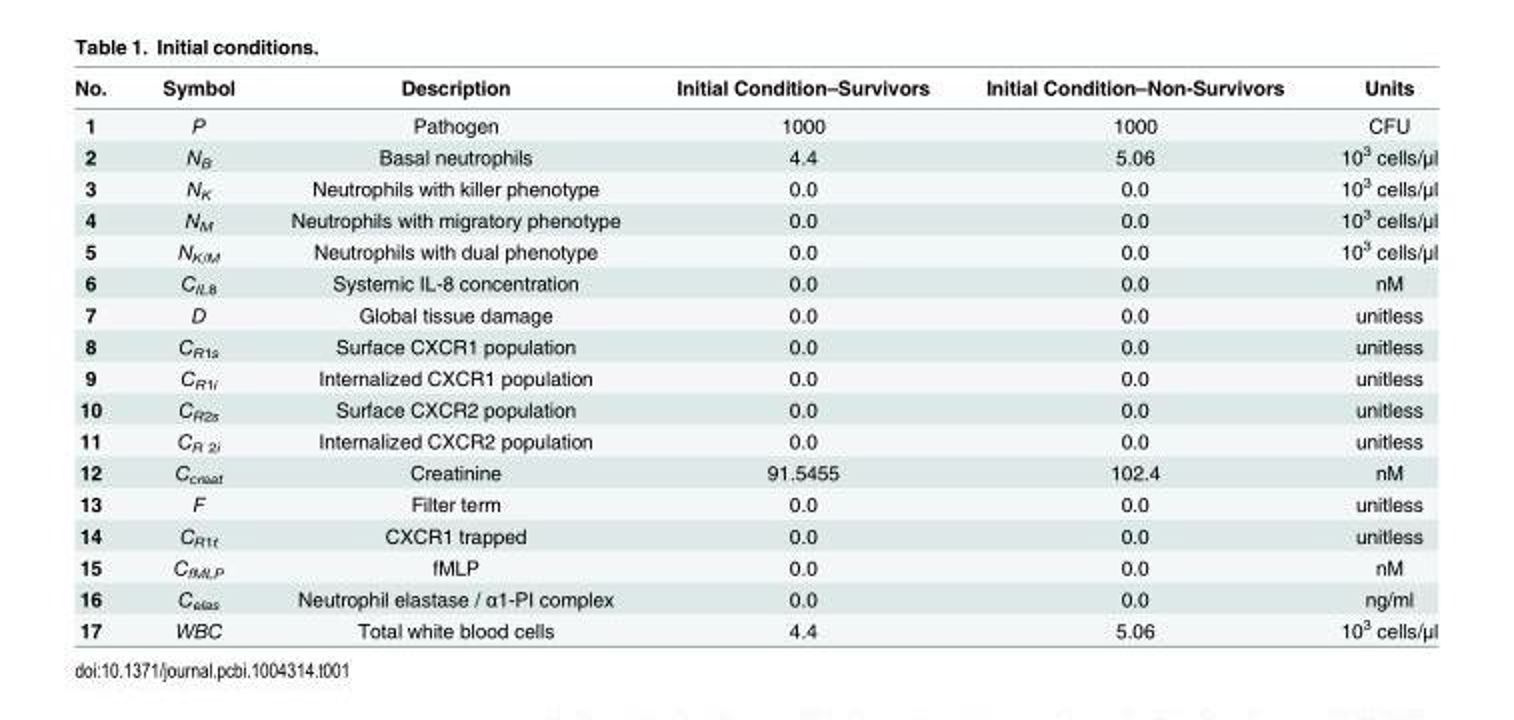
<table><thead><tr><td>No.</td><td>Symbol</td><td>Description</td><td>Initial Condition–Survivors</td><td>Initial Condition–Non-Survivors</td><td>Units</td></tr></thead><tbody><tr><td>1</td><td>P</td><td>Pathogen</td><td>1000</td><td>1000</td><td>CFU</td></tr><tr><td>2</td><td>N<sub>B</sub></td><td>Basal neutrophils</td><td>4.4</td><td>5.06</td><td>10<sup>3</sup> cells/μl</td></tr><tr><td>3</td><td>N<sub>K</sub></td><td>Neutrophils with killer phenotype</td><td>0.0</td><td>0.0</td><td>10<sup>3</sup> cells/μl</td></tr><tr><td>4</td><td>N<sub>M</sub></td><td>Neutrophils with migratory phenotype</td><td>0.0</td><td>0.0</td><td>10<sup>3</sup> cells/μl</td></tr><tr><td>5</td><td>N<sub>K/M</sub></td><td>Neutrophils with dual phenotype</td><td>0.0</td><td>0.0</td><td>10<sup>3</sup> cells/μl</td></tr><tr><td>6</td><td>C<sub>IL8</sub></td><td>Systemic IL-8 concentration</td><td>0.0</td><td>0.0</td><td>nM</td></tr><tr><td>7</td><td>D</td><td>Global tissue damage</td><td>0.0</td><td>0.0</td><td>unitless</td></tr><tr><td>8</td><td>C<sub>R1s</sub></td><td>Surface CXCR1 population</td><td>0.0</td><td>0.0</td><td>unitless</td></tr><tr><td>9</td><td>C<sub>R1i</sub></td><td>Internalized CXCR1 population</td><td>0.0</td><td>0.0</td><td>unitless</td></tr><tr><td>10</td><td>C<sub>R2s</sub></td><td>Surface CXCR2 population</td><td>0.0</td><td>0.0</td><td>unitless</td></tr><tr><td>11</td><td>C<sub>R 2i</sub></td><td>Internalized CXCR2 population</td><td>0.0</td><td>0.0</td><td>unitless</td></tr><tr><td>12</td><td>C<sub>creat</sub></td><td>Creatinine</td><td>91.5455</td><td>102.4</td><td>nM</td></tr><tr><td>13</td><td>F</td><td>Filter term</td><td>0.0</td><td>0.0</td><td>unitless</td></tr><tr><td>14</td><td>C<sub>R1t</sub></td><td>CXCR1 trapped</td><td>0.0</td><td>0.0</td><td>unitless</td></tr><tr><td>15</td><td>C<sub>fMLP</sub></td><td>fMLP</td><td>0.0</td><td>0.0</td><td>nM</td></tr><tr><td>16</td><td>C<sub>elas</sub></td><td>Neutrophil elastase / α1-PI complex</td><td>0.0</td><td>0.0</td><td>ng/ml</td></tr><tr><td>17</td><td>WBC</td><td>Total white blood cells</td><td>4.4</td><td>5.06</td><td>10<sup>3</sup> cells/μl</td></tr></tbody></table>